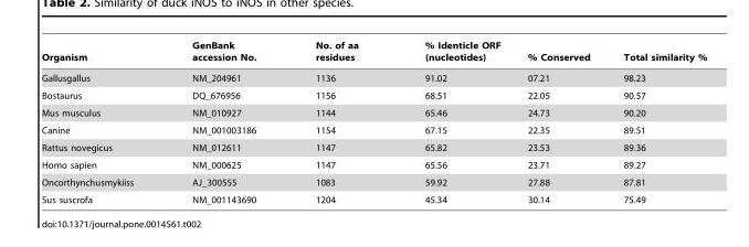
<table><thead><tr><td>Organism</td><td>GenBank accession No.</td><td>No. of aa residues</td><td>% Identicle ORF (nucleotides)</td><td>% Conserved</td><td>Total similarity %</td></tr></thead><tbody><tr><td>Gallusgallus</td><td>NM_204961</td><td>1136</td><td>91.02</td><td>07.21</td><td>98.23</td></tr><tr><td>Bostaurus</td><td>DQ_676956</td><td>1156</td><td>68.51</td><td>22.05</td><td>90.57</td></tr><tr><td>Mus musculus</td><td>NM_010927</td><td>1144</td><td>65.46</td><td>24.73</td><td>90.20</td></tr><tr><td>Canine</td><td>NM_001003186</td><td>1154</td><td>67.15</td><td>22.35</td><td>89.51</td></tr><tr><td>Rattus novegicus</td><td>NM_012611</td><td>1147</td><td>65.82</td><td>23.53</td><td>89.36</td></tr><tr><td>Homo sapien</td><td>NM_000625</td><td>1147</td><td>65.56</td><td>23.71</td><td>89.27</td></tr><tr><td>Oncorthynchusmykiiss</td><td>AJ_300555</td><td>1083</td><td>59.92</td><td>27.88</td><td>87.81</td></tr><tr><td>Sus suscrofa</td><td>NM_001143690</td><td>1204</td><td>45.34</td><td>30.14</td><td>75.49</td></tr></tbody></table>